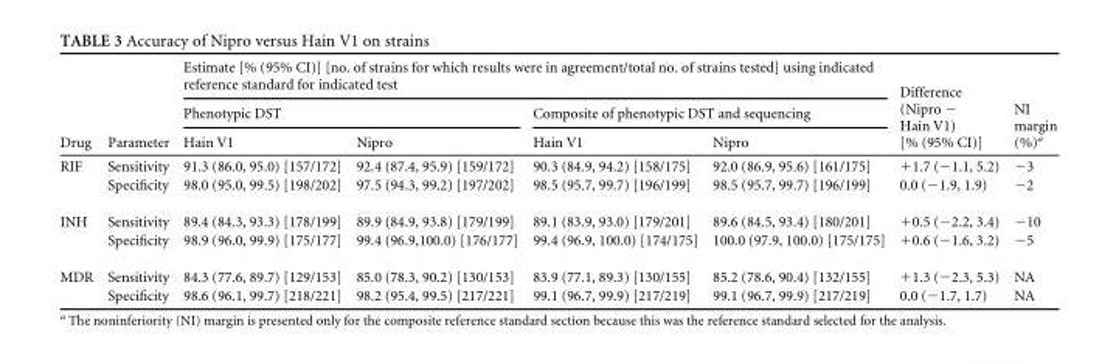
<table><thead><tr><td rowspan="3">Drug</td><td rowspan="3">Parameter</td><td colspan="4">Estimate [% (95% CI)] [no. of strains for which results were in agreement/total no. of strains tested] using indicated reference standard for indicated test</td><td rowspan="3">Difference (Nipro − Hain V1) [% (95% CI)]</td><td rowspan="3">NI margin (%)<sup>a</sup></td></tr><tr><td colspan="2">Phenotypic DST</td><td colspan="2">Composite of phenotypic DST and sequencing</td></tr><tr><td>Hain V1</td><td>Nipro</td><td>Hain V1</td><td>Nipro</td></tr></thead><tbody><tr><td rowspan="2">RIF</td><td>Sensitivity</td><td>91.3 (86.0, 95.0) [157/172]</td><td>92.4 (87.4, 95.9) [159/172]</td><td>90.3 (84.9, 94.2) [158/175]</td><td>92.0 (86.9, 95.6) [161/175]</td><td>+1.7 (−1.1, 5.2)</td><td>−3</td></tr><tr><td>Specificity</td><td>98.0 (95.0, 99.5) [198/202]</td><td>97.5 (94.3, 99.2) [197/202]</td><td>98.5 (95.7, 99.7) [196/199]</td><td>98.5 (95.7, 99.7) [196/199]</td><td>0.0 (−1.9, 1.9)</td><td>−2</td></tr><tr><td rowspan="2">INH</td><td>Sensitivity</td><td>89.4 (84.3, 93.3) [178/199]</td><td>89.9 (84.9, 93.8) [179/199]</td><td>89.1 (83.9, 93.0) [179/201]</td><td>89.6 (84.5, 93.4) [180/201]</td><td>+0.5 (−2.2, 3.4)</td><td>−10</td></tr><tr><td>Specificity</td><td>98.9 (96.0, 99.9) [175/177]</td><td>99.4 (96.9,100.0) [176/177]</td><td>99.4 (96.9, 100.0) [174/175]</td><td>100.0 (97.9, 100.0) [175/175]</td><td>+0.6 (−1.6, 3.2)</td><td>−5</td></tr><tr><td rowspan="2">MDR</td><td>Sensitivity</td><td>84.3 (77.6, 89.7) [129/153]</td><td>85.0 (78.3, 90.2) [130/153]</td><td>83.9 (77.1, 89.3) [130/155]</td><td>85.2 (78.6, 90.4) [132/155]</td><td>+1.3 (−2.3, 5.3)</td><td>NA</td></tr><tr><td>Specificity</td><td>98.6 (96.1, 99.7) [218/221]</td><td>98.2 (95.4, 99.5) [217/221]</td><td>99.1 (96.7, 99.9) [217/219]</td><td>99.1 (96.7, 99.9) [217/219]</td><td>0.0 (−1.7, 1.7)</td><td>NA</td></tr></tbody></table>